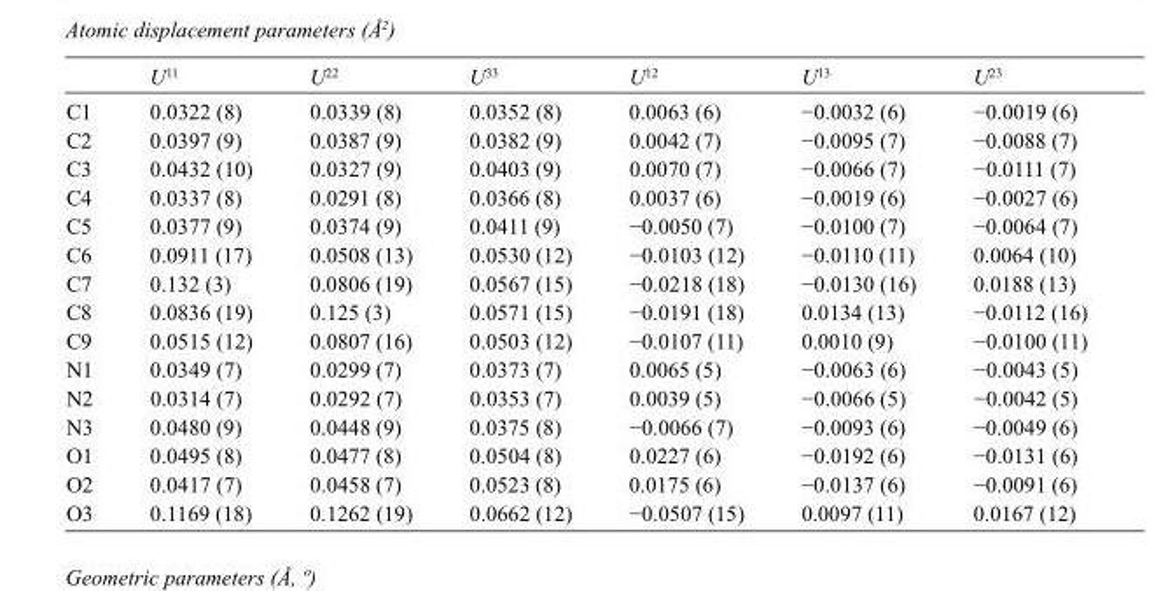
<table><thead><tr><td></td><td>U<sup>11</sup></td><td>U<sup>22</sup></td><td>U<sup>33</sup></td><td>U<sup>12</sup></td><td>U<sup>13</sup></td><td>U<sup>23</sup></td></tr></thead><tbody><tr><td>C1</td><td>0.0322 (8)</td><td>0.0339 (8)</td><td>0.0352 (8)</td><td>0.0063 (6)</td><td>−0.0032 (6)</td><td>−0.0019 (6)</td></tr><tr><td>C2</td><td>0.0397 (9)</td><td>0.0387 (9)</td><td>0.0382 (9)</td><td>0.0042 (7)</td><td>−0.0095 (7)</td><td>−0.0088 (7)</td></tr><tr><td>C3</td><td>0.0432 (10)</td><td>0.0327 (9)</td><td>0.0403 (9)</td><td>0.0070 (7)</td><td>−0.0066 (7)</td><td>−0.0111 (7)</td></tr><tr><td>C4</td><td>0.0337 (8)</td><td>0.0291 (8)</td><td>0.0366 (8)</td><td>0.0037 (6)</td><td>−0.0019 (6)</td><td>−0.0027 (6)</td></tr><tr><td>C5</td><td>0.0377 (9)</td><td>0.0374 (9)</td><td>0.0411 (9)</td><td>−0.0050 (7)</td><td>−0.0100 (7)</td><td>−0.0064 (7)</td></tr><tr><td>C6</td><td>0.0911 (17)</td><td>0.0508 (13)</td><td>0.0530 (12)</td><td>−0.0103 (12)</td><td>−0.0110 (11)</td><td>0.0064 (10)</td></tr><tr><td>C7</td><td>0.132 (3)</td><td>0.0806 (19)</td><td>0.0567 (15)</td><td>−0.0218 (18)</td><td>−0.0130 (16)</td><td>0.0188 (13)</td></tr><tr><td>C8</td><td>0.0836 (19)</td><td>0.125 (3)</td><td>0.0571 (15)</td><td>−0.0191 (18)</td><td>0.0134 (13)</td><td>−0.0112 (16)</td></tr><tr><td>C9</td><td>0.0515 (12)</td><td>0.0807 (16)</td><td>0.0503 (12)</td><td>−0.0107 (11)</td><td>0.0010 (9)</td><td>−0.0100 (11)</td></tr><tr><td>N1</td><td>0.0349 (7)</td><td>0.0299 (7)</td><td>0.0373 (7)</td><td>0.0065 (5)</td><td>−0.0063 (6)</td><td>−0.0043 (5)</td></tr><tr><td>N2</td><td>0.0314 (7)</td><td>0.0292 (7)</td><td>0.0353 (7)</td><td>0.0039 (5)</td><td>−0.0066 (5)</td><td>−0.0042 (5)</td></tr><tr><td>N3</td><td>0.0480 (9)</td><td>0.0448 (9)</td><td>0.0375 (8)</td><td>−0.0066 (7)</td><td>−0.0093 (6)</td><td>−0.0049 (6)</td></tr><tr><td>O1</td><td>0.0495 (8)</td><td>0.0477 (8)</td><td>0.0504 (8)</td><td>0.0227 (6)</td><td>−0.0192 (6)</td><td>−0.0131 (6)</td></tr><tr><td>O2</td><td>0.0417 (7)</td><td>0.0458 (7)</td><td>0.0523 (8)</td><td>0.0175 (6)</td><td>−0.0137 (6)</td><td>−0.0091 (6)</td></tr><tr><td>O3</td><td>0.1169 (18)</td><td>0.1262 (19)</td><td>0.0662 (12)</td><td>−0.0507 (15)</td><td>0.0097 (11)</td><td>0.0167 (12)</td></tr></tbody></table>